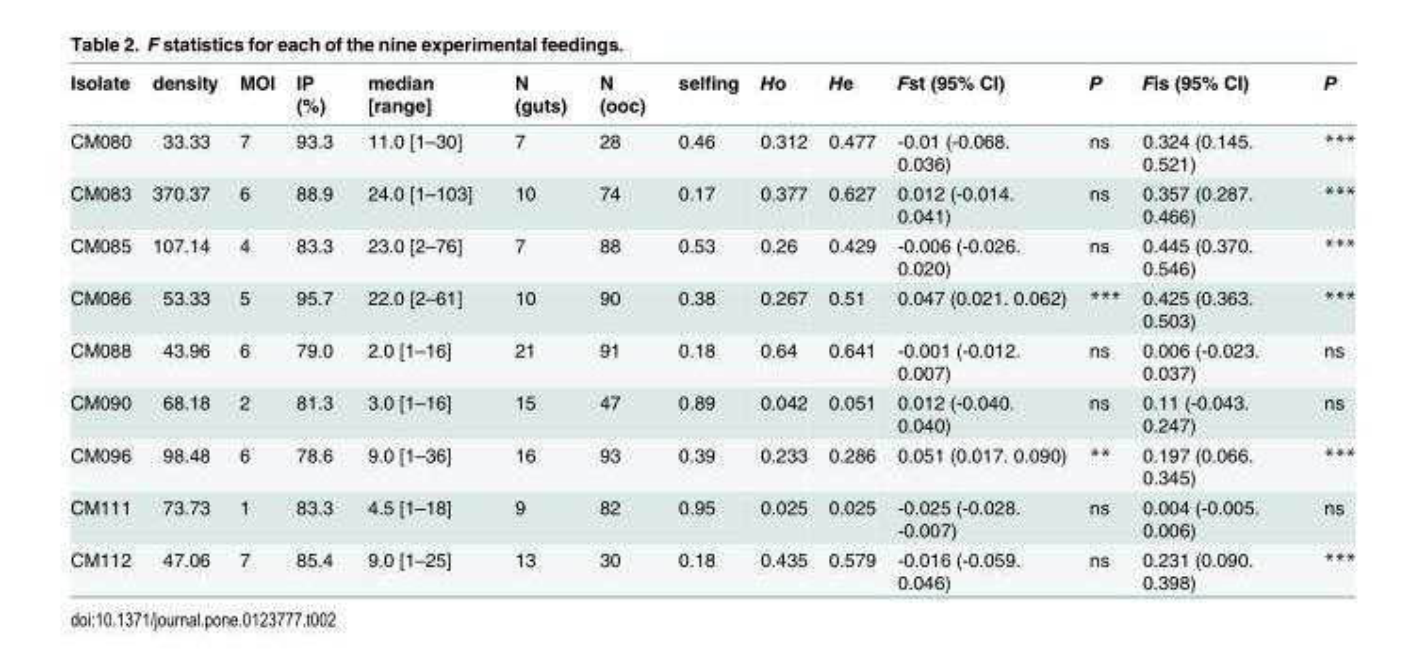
<table><thead><tr><td>Isolate</td><td>density</td><td>MOI</td><td>IP (%)</td><td>median [range]</td><td>N (guts)</td><td>N (ooc)</td><td>selfing</td><td>Ho</td><td>He</td><td>Fst (95% CI)</td><td>P</td><td>Fis (95% CI)</td><td>P</td></tr></thead><tbody><tr><td>CM080</td><td>33.33</td><td>7</td><td>93.3</td><td>11.0 [1–30]</td><td>7</td><td>28</td><td>0.46</td><td>0.312</td><td>0.477</td><td>-0.01 (-0.068. 0.036)</td><td>ns</td><td>0.324 (0.145. 0.521)</td><td>***</td></tr><tr><td>CM083</td><td>370.37</td><td>6</td><td>88.9</td><td>24.0 [1–103]</td><td>10</td><td>74</td><td>0.17</td><td>0.377</td><td>0.627</td><td>0.012 (-0.014. 0.041)</td><td>ns</td><td>0.357 (0.287. 0.466)</td><td>***</td></tr><tr><td>CM085</td><td>107.14</td><td>4</td><td>83.3</td><td>23.0 [2–76]</td><td>7</td><td>88</td><td>0.53</td><td>0.26</td><td>0.429</td><td>-0.006 (-0.026. 0.020)</td><td>ns</td><td>0.445 (0.370. 0.546)</td><td>***</td></tr><tr><td>CM086</td><td>53.33</td><td>5</td><td>95.7</td><td>22.0 [2–61]</td><td>10</td><td>90</td><td>0.38</td><td>0.267</td><td>0.51</td><td>0.047 (0.021. 0.062)</td><td>***</td><td>0.425 (0.363. 0.503)</td><td>***</td></tr><tr><td>CM088</td><td>43.96</td><td>6</td><td>79.0</td><td>2.0 [1–16]</td><td>21</td><td>91</td><td>0.18</td><td>0.64</td><td>0.641</td><td>-0.001 (-0.012. 0.007)</td><td>ns</td><td>0.006 (-0.023. 0.037)</td><td>ns</td></tr><tr><td>CM090</td><td>68.18</td><td>2</td><td>81.3</td><td>3.0 [1–16]</td><td>15</td><td>47</td><td>0.89</td><td>0.042</td><td>0.051</td><td>0.012 (-0.040. 0.040)</td><td>ns</td><td>0.11 (-0.043. 0.247)</td><td>ns</td></tr><tr><td>CM096</td><td>98.48</td><td>6</td><td>78.6</td><td>9.0 [1–36]</td><td>16</td><td>93</td><td>0.39</td><td>0.233</td><td>0.286</td><td>0.051 (0.017. 0.090)</td><td>**</td><td>0.197 (0.066. 0.345)</td><td>***</td></tr><tr><td>CM111</td><td>73.73</td><td>1</td><td>83.3</td><td>4.5 [1–18]</td><td>9</td><td>82</td><td>0.95</td><td>0.025</td><td>0.025</td><td>-0.025 (-0.028. -0.007)</td><td>ns</td><td>0.004 (-0.005. 0.006)</td><td>ns</td></tr><tr><td>CM112</td><td>47.06</td><td>7</td><td>85.4</td><td>9.0 [1–25]</td><td>13</td><td>30</td><td>0.18</td><td>0.435</td><td>0.579</td><td>-0.016 (-0.059. 0.046)</td><td>ns</td><td>0.231 (0.090. 0.398)</td><td>***</td></tr></tbody></table>